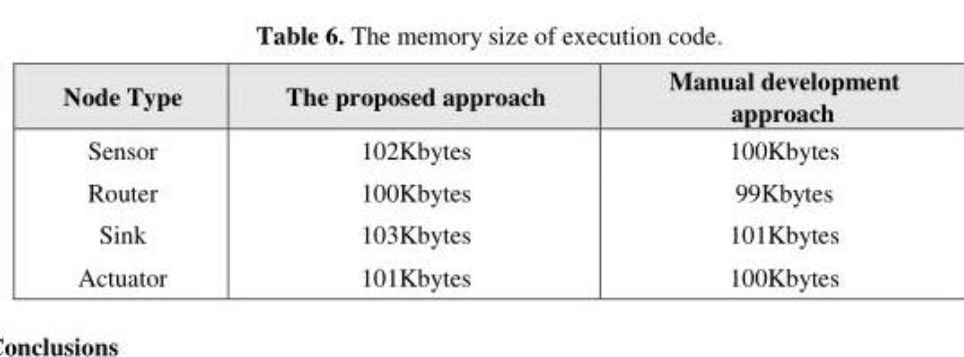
<table><thead><tr><td>Node Type</td><td>The proposed approach</td><td>Manual development approach</td></tr></thead><tbody><tr><td>Sensor</td><td>102Kbytes</td><td>100Kbytes</td></tr><tr><td>Router</td><td>100Kbytes</td><td>99Kbytes</td></tr><tr><td>Sink</td><td>103Kbytes</td><td>101Kbytes</td></tr><tr><td>Actuator</td><td>101Kbytes</td><td>100Kbytes</td></tr></tbody></table>